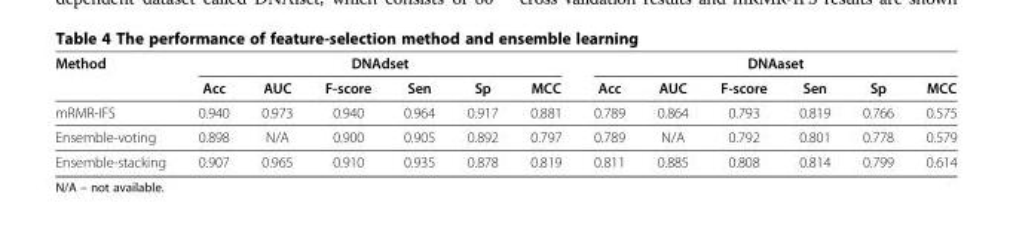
<table><thead><tr><td rowspan="2">Method</td><td colspan="6">DNAdset</td><td colspan="6">DNAaset</td></tr><tr><td>Acc</td><td>AUC</td><td>F-score</td><td>Sen</td><td>Sp</td><td>MCC</td><td>Acc</td><td>AUC</td><td>F-score</td><td>Sen</td><td>Sp</td><td>MCC</td></tr></thead><tbody><tr><td>mRMR-IFS</td><td>0.940</td><td>0.973</td><td>0.940</td><td>0.964</td><td>0.917</td><td>0.881</td><td>0.789</td><td>0.864</td><td>0.793</td><td>0.819</td><td>0.766</td><td>0.575</td></tr><tr><td>Ensemble-voting</td><td>0.898</td><td>N/A</td><td>0.900</td><td>0.905</td><td>0.892</td><td>0.797</td><td>0.789</td><td>N/A</td><td>0.792</td><td>0.801</td><td>0.778</td><td>0.579</td></tr><tr><td>Ensemble-stacking</td><td>0.907</td><td>0.965</td><td>0.910</td><td>0.935</td><td>0.878</td><td>0.819</td><td>0.811</td><td>0.885</td><td>0.808</td><td>0.814</td><td>0.799</td><td>0.614</td></tr></tbody></table>